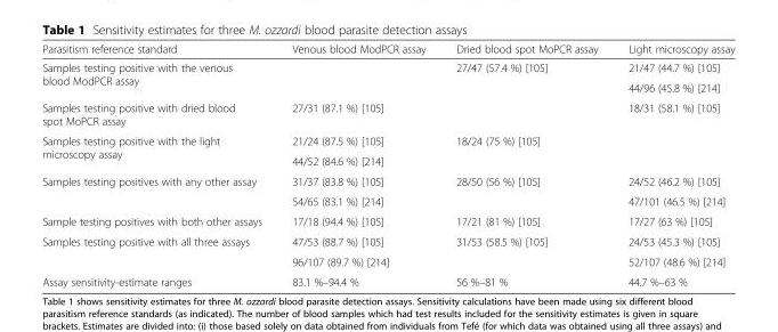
<table><thead><tr><td>Parasitism reference standard</td><td>Venous blood ModPCR assay</td><td>Dried blood spot MoPCR assay</td><td>Light microscopy assay</td></tr></thead><tbody><tr><td rowspan="2">Samples testing positive with the venous blood ModPCR assay</td><td rowspan="2"></td><td rowspan="2">27/47 (57.4 %) [105]</td><td>21/47 (44.7 %) [105]</td></tr><tr><td>44/96 (45.8 %) [214]</td></tr><tr><td>Samples testing positive with dried blood spot MoPCR assay</td><td>27/31 (87.1 %) [105]</td><td></td><td>18/31 (58.1 %) [105]</td></tr><tr><td rowspan="2">Samples testing positive with the light microscopy assay</td><td>21/24 (87.5 %) [105]</td><td rowspan="2">18/24 (75 %) [105]</td><td rowspan="2"></td></tr><tr><td>44/52 (84.6 %) [214]</td></tr><tr><td rowspan="2">Samples testing positives with any other assay</td><td>31/37 (83.8 %) [105]</td><td rowspan="2">28/50 (56 %) [105]</td><td>24/52 (46.2 %) [105]</td></tr><tr><td>54/65 (83.1 %) [214]</td><td>47/101 (46.5 %) [214]</td></tr><tr><td>Sample testing positives with both other assays</td><td>17/18 (94.4 %) [105]</td><td>17/21 (81 %) [105]</td><td>17/27 (63 %) [105]</td></tr><tr><td rowspan="2">Samples testing positive with all three assays</td><td>47/53 (88.7 %) [105]</td><td>31/53 (58.5 %) [105]</td><td>24/53 (45.3 %) [105]</td></tr><tr><td>96/107 (89.7 %) [214]</td><td></td><td>52/107 (48.6 %) [214]</td></tr><tr><td>Assay sensitivity-estimate ranges</td><td>83.1 %–94.4 %</td><td>56 %–81 %</td><td>44.7 %–63 %</td></tr></tbody></table>